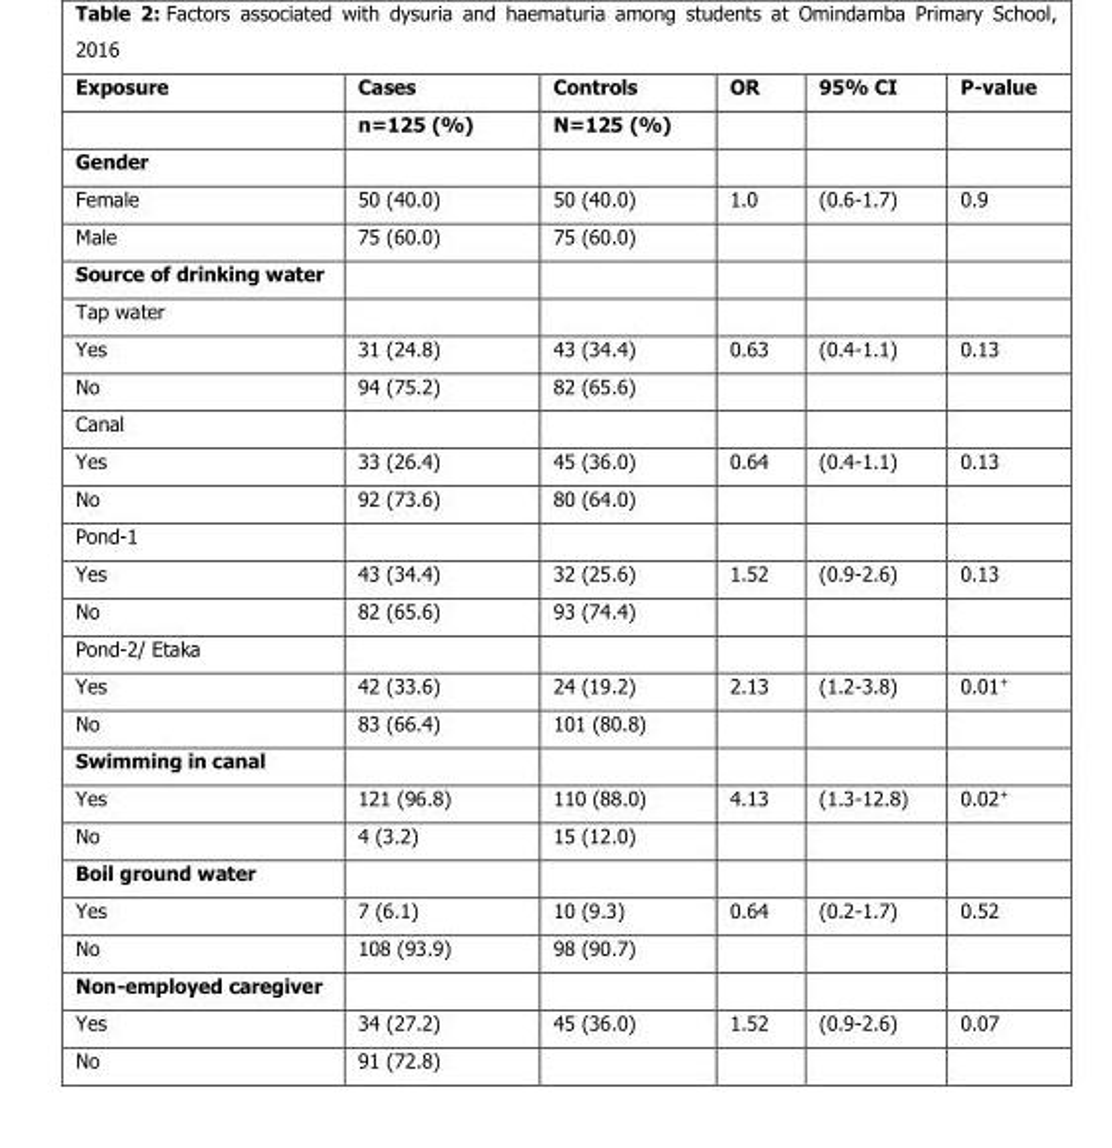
<table><thead><tr><td>Exposure</td><td>Cases</td><td>Controls</td><td>OR</td><td>95% CI</td><td>P-value</td></tr></thead><tbody><tr><td></td><td>n=125 (%)</td><td>N=125 (%)</td><td></td><td></td><td></td></tr><tr><td colspan="6">Gender</td></tr><tr><td>Female</td><td>50 (40.0)</td><td>50 (40.0)</td><td>1.0</td><td>(0.6-1.7)</td><td>0.9</td></tr><tr><td>Male</td><td>75 (60.0)</td><td>75 (60.0)</td><td></td><td></td><td></td></tr><tr><td colspan="6">Source of drinking water</td></tr><tr><td colspan="6">Tap water</td></tr><tr><td>Yes</td><td>31 (24.8)</td><td>43 (34.4)</td><td>0.63</td><td>(0.4-1.1)</td><td>0.13</td></tr><tr><td>No</td><td>94 (75.2)</td><td>82 (65.6)</td><td></td><td></td><td></td></tr><tr><td colspan="6">Canal</td></tr><tr><td>Yes</td><td>33 (26.4)</td><td>45 (36.0)</td><td>0.64</td><td>(0.4-1.1)</td><td>0.13</td></tr><tr><td>No</td><td>92 (73.6)</td><td>80 (64.0)</td><td></td><td></td><td></td></tr><tr><td colspan="6">Pond-1</td></tr><tr><td>Yes</td><td>43 (34.4)</td><td>32 (25.6)</td><td>1.52</td><td>(0.9-2.6)</td><td>0.13</td></tr><tr><td>No</td><td>82 (65.6)</td><td>93 (74.4)</td><td></td><td></td><td></td></tr><tr><td colspan="6">Pond-2/ Etaka</td></tr><tr><td>Yes</td><td>42 (33.6)</td><td>24 (19.2)</td><td>2.13</td><td>(1.2-3.8)</td><td>0.01+</td></tr><tr><td>No</td><td>83 (66.4)</td><td>101 (80.8)</td><td></td><td></td><td></td></tr><tr><td colspan="6">Swimming in canal</td></tr><tr><td>Yes</td><td>121 (96.8)</td><td>110 (88.0)</td><td>4.13</td><td>(1.3-12.8)</td><td>0.02+</td></tr><tr><td>No</td><td>4 (3.2)</td><td>15 (12.0)</td><td></td><td></td><td></td></tr><tr><td colspan="6">Boil ground water</td></tr><tr><td>Yes</td><td>7 (6.1)</td><td>10 (9.3)</td><td>0.64</td><td>(0.2-1.7)</td><td>0.52</td></tr><tr><td>No</td><td>108 (93.9)</td><td>98 (90.7)</td><td></td><td></td><td></td></tr><tr><td colspan="6">Non-employed caregiver</td></tr><tr><td>Yes</td><td>34 (27.2)</td><td>45 (36.0)</td><td>1.52</td><td>(0.9-2.6)</td><td>0.07</td></tr><tr><td>No</td><td>91 (72.8)</td><td></td><td></td><td></td><td></td></tr></tbody></table>